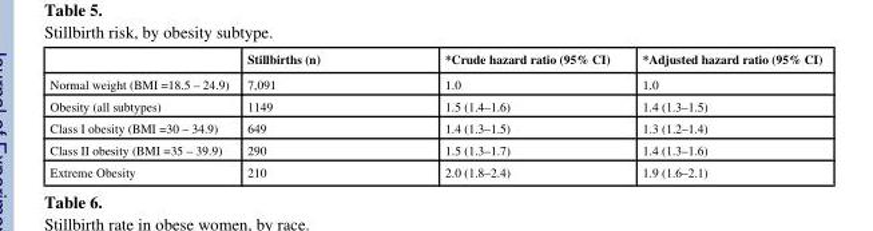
<table><thead><tr><td></td><td>Stillbirths (n)</td><td>*Crude hazard ratio (95% CI)</td><td>*Adjusted hazard ratio (95% CI)</td></tr></thead><tbody><tr><td>Normal weight (BMI =18.5 – 24.9)</td><td>7,091</td><td>1.0</td><td>1.0</td></tr><tr><td>Obesity (all subtypes)</td><td>1149</td><td>1.5 (1.4–1.6)</td><td>1.4 (1.3–1.5)</td></tr><tr><td>Class I obesity (BMI =30 – 34.9)</td><td>649</td><td>1.4 (1.3–1.5)</td><td>1.3 (1.2–1.4)</td></tr><tr><td>Class II obesity (BMI =35 – 39.9)</td><td>290</td><td>1.5 (1.3–1.7)</td><td>1.4 (1.3–1.6)</td></tr><tr><td>Extreme Obesity</td><td>210</td><td>2.0 (1.8–2.4)</td><td>1.9 (1.6–2.1)</td></tr></tbody></table>